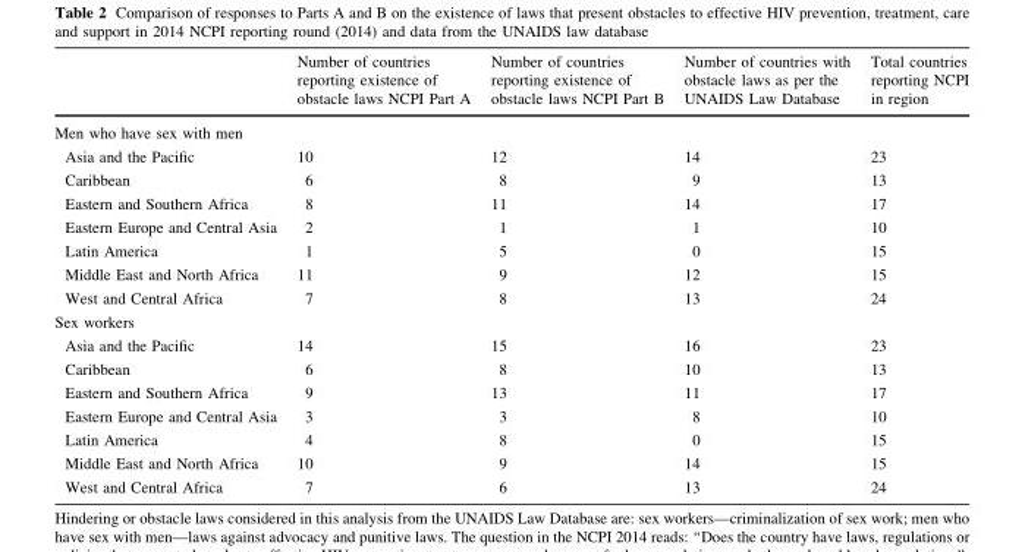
<table><thead><tr><td></td><td>Number of countries reporting existence of obstacle laws NCPI Part A</td><td>Number of countries reporting existence of obstacle laws NCPI Part B</td><td>Number of countries with obstacle laws as per the UNAIDS Law Database</td><td>Total countries reporting NCPI in region</td></tr></thead><tbody><tr><td colspan="5">Men who have sex with men</td></tr><tr><td>Asia and the Pacific</td><td>10</td><td>12</td><td>14</td><td>23</td></tr><tr><td>Caribbean</td><td>6</td><td>8</td><td>9</td><td>13</td></tr><tr><td>Eastern and Southern Africa</td><td>8</td><td>11</td><td>14</td><td>17</td></tr><tr><td>Eastern Europe and Central Asia</td><td>2</td><td>1</td><td>1</td><td>10</td></tr><tr><td>Latin America</td><td>1</td><td>5</td><td>0</td><td>15</td></tr><tr><td>Middle East and North Africa</td><td>11</td><td>9</td><td>12</td><td>15</td></tr><tr><td>West and Central Africa</td><td>7</td><td>8</td><td>13</td><td>24</td></tr><tr><td colspan="5">Sex workers</td></tr><tr><td>Asia and the Pacific</td><td>14</td><td>15</td><td>16</td><td>23</td></tr><tr><td>Caribbean</td><td>6</td><td>8</td><td>10</td><td>13</td></tr><tr><td>Eastern and Southern Africa</td><td>9</td><td>13</td><td>11</td><td>17</td></tr><tr><td>Eastern Europe and Central Asia</td><td>3</td><td>3</td><td>8</td><td>10</td></tr><tr><td>Latin America</td><td>4</td><td>8</td><td>0</td><td>15</td></tr><tr><td>Middle East and North Africa</td><td>10</td><td>9</td><td>14</td><td>15</td></tr><tr><td>West and Central Africa</td><td>7</td><td>6</td><td>13</td><td>24</td></tr></tbody></table>